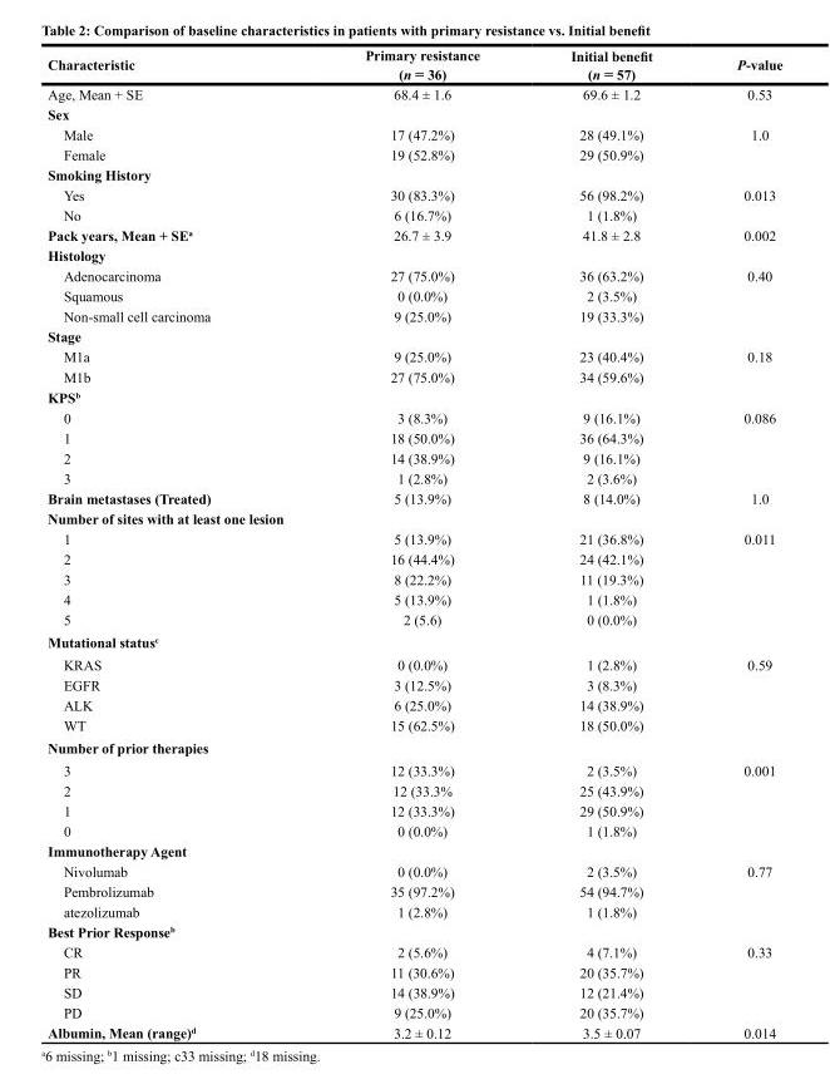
<table><thead><tr><td>Characteristic</td><td>Primary resistance (n = 36)</td><td>Initial benefit (n = 57)</td><td>P-value</td></tr></thead><tbody><tr><td>Age, Mean + SE</td><td>68.4 ± 1.6</td><td>69.6 ± 1.2</td><td>0.53</td></tr><tr><td colspan="4">Sex</td></tr><tr><td>Male</td><td>17 (47.2%)</td><td>28 (49.1%)</td><td>1.0</td></tr><tr><td>Female</td><td>19 (52.8%)</td><td>29 (50.9%)</td><td></td></tr><tr><td colspan="4">Smoking History</td></tr><tr><td>Yes</td><td>30 (83.3%)</td><td>56 (98.2%)</td><td>0.013</td></tr><tr><td>No</td><td>6 (16.7%)</td><td>1 (1.8%)</td><td></td></tr><tr><td>Pack years, Mean + SE<sup>a</sup></td><td>26.7 ± 3.9</td><td>41.8 ± 2.8</td><td>0.002</td></tr><tr><td colspan="4">Histology</td></tr><tr><td>Adenocarcinoma</td><td>27 (75.0%)</td><td>36 (63.2%)</td><td>0.40</td></tr><tr><td>Squamous</td><td>0 (0.0%)</td><td>2 (3.5%)</td><td></td></tr><tr><td>Non-small cell carcinoma</td><td>9 (25.0%)</td><td>19 (33.3%)</td><td></td></tr><tr><td colspan="4">Stage</td></tr><tr><td>M1a</td><td>9 (25.0%)</td><td>23 (40.4%)</td><td>0.18</td></tr><tr><td>M1b</td><td>27 (75.0%)</td><td>34 (59.6%)</td><td></td></tr><tr><td colspan="4">KPS<sup>b</sup></td></tr><tr><td>0</td><td>3 (8.3%)</td><td>9 (16.1%)</td><td>0.086</td></tr><tr><td>1</td><td>18 (50.0%)</td><td>36 (64.3%)</td><td></td></tr><tr><td>2</td><td>14 (38.9%)</td><td>9 (16.1%)</td><td></td></tr><tr><td>3</td><td>1 (2.8%)</td><td>2 (3.6%)</td><td></td></tr><tr><td>Brain metastases (Treated)</td><td>5 (13.9%)</td><td>8 (14.0%)</td><td>1.0</td></tr><tr><td colspan="4">Number of sites with at least one lesion</td></tr><tr><td>1</td><td>5 (13.9%)</td><td>21 (36.8%)</td><td>0.011</td></tr><tr><td>2</td><td>16 (44.4%)</td><td>24 (42.1%)</td><td></td></tr><tr><td>3</td><td>8 (22.2%)</td><td>11 (19.3%)</td><td></td></tr><tr><td>4</td><td>5 (13.9%)</td><td>1 (1.8%)</td><td></td></tr><tr><td>5</td><td>2 (5.6)</td><td>0 (0.0%)</td><td></td></tr><tr><td colspan="4">Mutational status<sup>c</sup></td></tr><tr><td>KRAS</td><td>0 (0.0%)</td><td>1 (2.8%)</td><td>0.59</td></tr><tr><td>EGFR</td><td>3 (12.5%)</td><td>3 (8.3%)</td><td></td></tr><tr><td>ALK</td><td>6 (25.0%)</td><td>14 (38.9%)</td><td></td></tr><tr><td>WT</td><td>15 (62.5%)</td><td>18 (50.0%)</td><td></td></tr><tr><td colspan="4">Number of prior therapies</td></tr><tr><td>3</td><td>12 (33.3%)</td><td>2 (3.5%)</td><td>0.001</td></tr><tr><td>2</td><td>12 (33.3%</td><td>25 (43.9%)</td><td></td></tr><tr><td>1</td><td>12 (33.3%)</td><td>29 (50.9%)</td><td></td></tr><tr><td>0</td><td>0 (0.0%)</td><td>1 (1.8%)</td><td></td></tr><tr><td colspan="4">Immunotherapy Agent</td></tr><tr><td>Nivolumab</td><td>0 (0.0%)</td><td>2 (3.5%)</td><td>0.77</td></tr><tr><td>Pembrolizumab</td><td>35 (97.2%)</td><td>54 (94.7%)</td><td></td></tr><tr><td>atezolizumab</td><td>1 (2.8%)</td><td>1 (1.8%)</td><td></td></tr><tr><td colspan="4">Best Prior Response<sup>b</sup></td></tr><tr><td>CR</td><td>2 (5.6%)</td><td>4 (7.1%)</td><td>0.33</td></tr><tr><td>PR</td><td>11 (30.6%)</td><td>20 (35.7%)</td><td></td></tr><tr><td>SD</td><td>14 (38.9%)</td><td>12 (21.4%)</td><td></td></tr><tr><td>PD</td><td>9 (25.0%)</td><td>20 (35.7%)</td><td></td></tr><tr><td>Albumin, Mean (range)<sup>d</sup></td><td>3.2 ± 0.12</td><td>3.5 ± 0.07</td><td>0.014</td></tr></tbody></table>